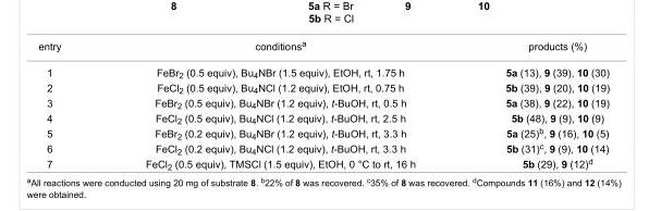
<table><tbody><tr><td>entry</td><td>conditions<sup>a</sup></td><td>products (%)</td></tr><tr><td>1</td><td>FeBr<sub>2</sub> (0.5 equiv), Bu<sub>4</sub>NBr (1.5 equiv), EtOH, rt, 1.75 h</td><td>5a (13), 9 (39), 10 (30)</td></tr><tr><td>2</td><td>FeCl<sub>2</sub> (0.5 equiv), Bu<sub>4</sub>NCl (1.2 equiv), EtOH, rt, 0.75 h</td><td>5b (39), 9 (20), 10 (19)</td></tr><tr><td>3</td><td>FeBr<sub>2</sub> (0.5 equiv), Bu<sub>4</sub>NBr (1.2 equiv), t-BuOH, rt, 0.5 h</td><td>5a (38), 9 (22), 10 (19)</td></tr><tr><td>4</td><td>FeCl<sub>2</sub> (0.5 equiv), Bu<sub>4</sub>NCl (1.2 equiv), t-BuOH, rt, 2.5 h</td><td>5b (48), 9 (9), 10 (9)</td></tr><tr><td>5</td><td>FeBr<sub>2</sub> (0.2 equiv), Bu<sub>4</sub>NBr (1.2 equiv), t-BuOH, rt, 3.3 h</td><td>5a (25)<sup>b</sup>, 9 (16), 10 (5)</td></tr><tr><td>6</td><td>FeCl<sub>2</sub> (0.2 equiv), Bu<sub>4</sub>NCl (1.2 equiv), t-BuOH, rt, 3.3 h</td><td>5b (31)<sup>c</sup>, 9 (9), 10 (14)</td></tr><tr><td>7</td><td>FeCl<sub>2</sub> (0.5 equiv), TMSCl (1.5 equiv), EtOH, 0 °C to rt, 16 h</td><td>5b (29), 9 (12)<sup>d</sup></td></tr></tbody></table>